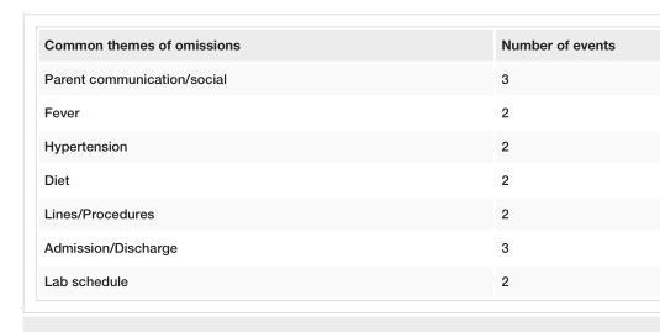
<table><tbody><tr><td>Common themes of omissions</td><td>Number of events</td></tr><tr><td>Parent communication/social</td><td>3</td></tr><tr><td>Fever</td><td>2</td></tr><tr><td>Hypertension</td><td>2</td></tr><tr><td>Diet</td><td>2</td></tr><tr><td>Lines/Procedures</td><td>2</td></tr><tr><td>Admission/Discharge</td><td>3</td></tr><tr><td>Lab schedule</td><td>2</td></tr></tbody></table>